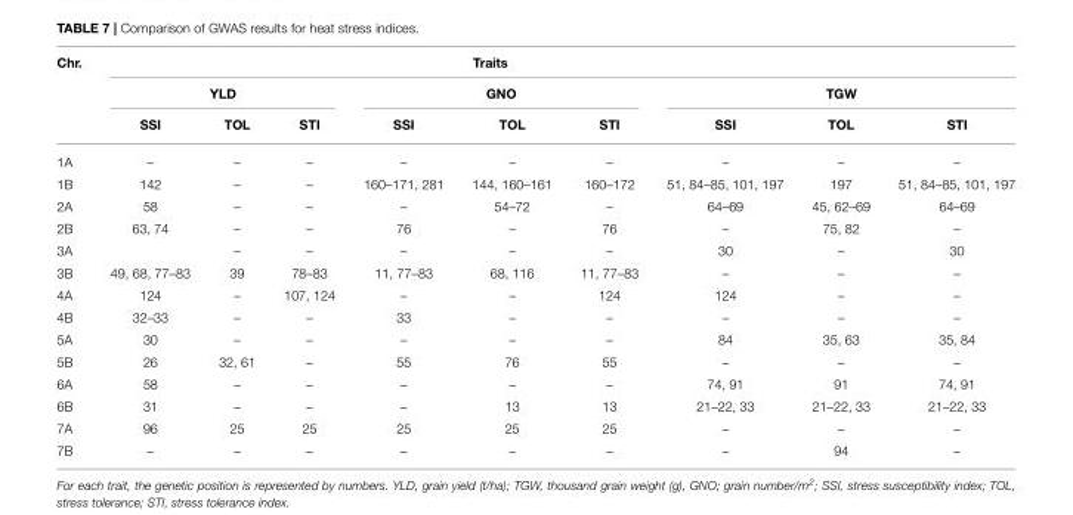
<table><thead><tr><td rowspan="3">Chr.</td><td colspan="9">Traits</td></tr><tr><td colspan="3">YLD</td><td colspan="3">GNO</td><td colspan="3">TGW</td></tr><tr><td>SSI</td><td>TOL</td><td>STI</td><td>SSI</td><td>TOL</td><td>STI</td><td>SSI</td><td>TOL</td><td>STI</td></tr></thead><tbody><tr><td>1A</td><td>–</td><td>–</td><td>–</td><td>–</td><td>–</td><td>–</td><td>–</td><td>–</td><td>–</td></tr><tr><td>1B</td><td>142</td><td>–</td><td>–</td><td>160–171, 281</td><td>144, 160–161</td><td>160–172</td><td>51, 84–85, 101, 197</td><td>197</td><td>51, 84–85, 101, 197</td></tr><tr><td>2A</td><td>58</td><td>–</td><td>–</td><td>–</td><td>54–72</td><td>–</td><td>64–69</td><td>45, 62–69</td><td>64–69</td></tr><tr><td>2B</td><td>63, 74</td><td>–</td><td>–</td><td>76</td><td>–</td><td>76</td><td>–</td><td>75, 82</td><td>–</td></tr><tr><td>3A</td><td></td><td>–</td><td>–</td><td>–</td><td>–</td><td>–</td><td>30</td><td>–</td><td>30</td></tr><tr><td>3B</td><td>49, 68, 77–83</td><td>39</td><td>78–83</td><td>11, 77–83</td><td>68, 116</td><td>11, 77–83</td><td>–</td><td>–</td><td>–</td></tr><tr><td>4A</td><td>124</td><td>–</td><td>107, 124</td><td>–</td><td>–</td><td>124</td><td>124</td><td>–</td><td>–</td></tr><tr><td>4B</td><td>32–33</td><td>–</td><td>–</td><td>33</td><td>–</td><td>–</td><td>–</td><td>–</td><td>–</td></tr><tr><td>5A</td><td>30</td><td>–</td><td>–</td><td>–</td><td>–</td><td>–</td><td>84</td><td>35, 63</td><td>35, 84</td></tr><tr><td>5B</td><td>26</td><td>32, 61</td><td>–</td><td>55</td><td>76</td><td>55</td><td>–</td><td>–</td><td>–</td></tr><tr><td>6A</td><td>58</td><td>–</td><td>–</td><td>–</td><td>–</td><td>–</td><td>74, 91</td><td>91</td><td>74, 91</td></tr><tr><td>6B</td><td>31</td><td>–</td><td>–</td><td>–</td><td>13</td><td>13</td><td>21–22, 33</td><td>21–22, 33</td><td>21–22, 33</td></tr><tr><td>7A</td><td>96</td><td>25</td><td>25</td><td>25</td><td>25</td><td>25</td><td>–</td><td>–</td><td>–</td></tr><tr><td>7B</td><td>–</td><td>–</td><td>–</td><td>–</td><td>–</td><td>–</td><td>–</td><td>94</td><td>–</td></tr></tbody></table>